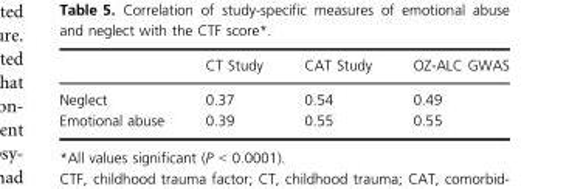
<table><thead><tr><td></td><td>CT Study</td><td>CAT Study</td><td>OZ-ALC GWAS</td></tr></thead><tbody><tr><td>Neglect</td><td>0.37</td><td>0.54</td><td>0.49</td></tr><tr><td>Emotional abuse</td><td>0.39</td><td>0.55</td><td>0.55</td></tr></tbody></table>